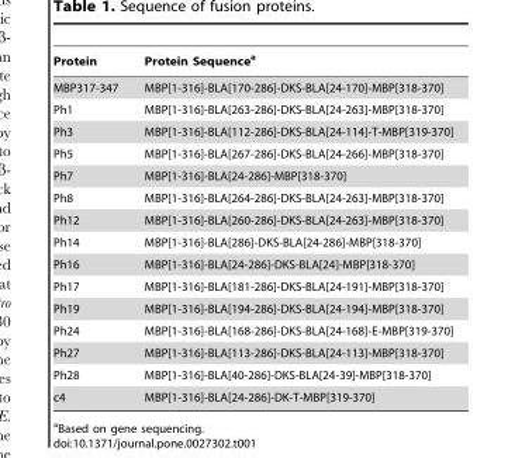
<table><thead><tr><td>Protein</td><td>Protein Sequence<sup>a</sup></td></tr></thead><tbody><tr><td>MBP317-347</td><td>MBP[1-316]-BLA[170-286]-DKS-BLA[24-170]-MBP[318-370]</td></tr><tr><td>Ph1</td><td>MBP[1-316]-BLA[263-286]-DKS-BLA[24-263]-MBP[318-370]</td></tr><tr><td>Ph3</td><td>MBP[1-316]-BLA[112-286]-DKS-BLA[24-114]-T-MBP[319-370]</td></tr><tr><td>Ph5</td><td>MBP[1-316]-BLA[267-286]-DKS-BLA[24-266]-MBP[318-370]</td></tr><tr><td>Ph7</td><td>MBP[1-316]-BLA[24-286]-MBP[318-370]</td></tr><tr><td>Ph8</td><td>MBP[1-316]-BLA[264-286]-DKS-BLA[24-263]-MBP[318-370]</td></tr><tr><td>Ph12</td><td>MBP[1-316]-BLA[260-286]-DKS-BLA[24-263]-MBP[318-370]</td></tr><tr><td>Ph14</td><td>MBP[1-316]-BLA[286]-DKS-BLA[24-286]-MBP[318-370]</td></tr><tr><td>Ph16</td><td>MBP[1-316]-BLA[24-286]-DKS-BLA[24]-MBP[318-370]</td></tr><tr><td>Ph17</td><td>MBP[1-316]-BLA[181-286]-DKS-BLA[24-191]-MBP[318-370]</td></tr><tr><td>Ph19</td><td>MBP[1-316]-BLA[194-286]-DKS-BLA[24-194]-MBP[318-370]</td></tr><tr><td>Ph24</td><td>MBP[1-316]-BLA[168-286]-DKS-BLA[24-168]-E-MBP[319-370]</td></tr><tr><td>Ph27</td><td>MBP[1-316]-BLA[113-286]-DKS-BLA[24-113]-MBP[318-370]</td></tr><tr><td>Ph28</td><td>MBP[1-316]-BLA[40-286]-DKS-BLA[24-39]-MBP[318-370]</td></tr><tr><td>c4</td><td>MBP[1-316]-BLA[24-286]-DK-T-MBP[319-370]</td></tr></tbody></table>